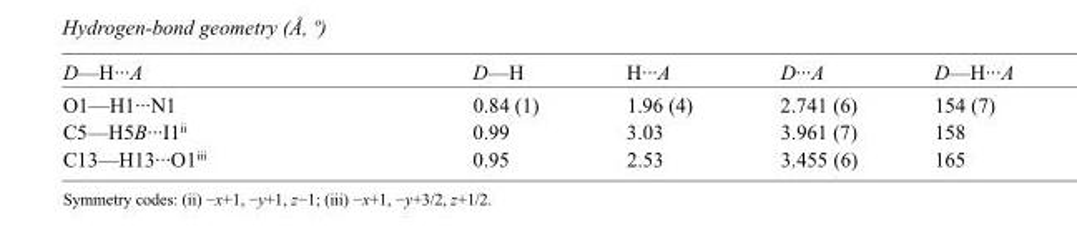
<table><tbody><tr><td>D—H···A</td><td>D—H</td><td>H···A</td><td>D···A</td><td>D—H···A</td></tr><tr><td>O1—H1···N1</td><td>0.84 (1)</td><td>1.96 (4)</td><td>2.741 (6)</td><td>154 (7)</td></tr><tr><td>C5—H5B···I1<sup>ii</sup></td><td>0.99</td><td>3.03</td><td>3.961 (7)</td><td>158</td></tr><tr><td>C13—H13···O1<sup>iii</sup></td><td>0.95</td><td>2.53</td><td>3.455 (6)</td><td>165</td></tr></tbody></table>